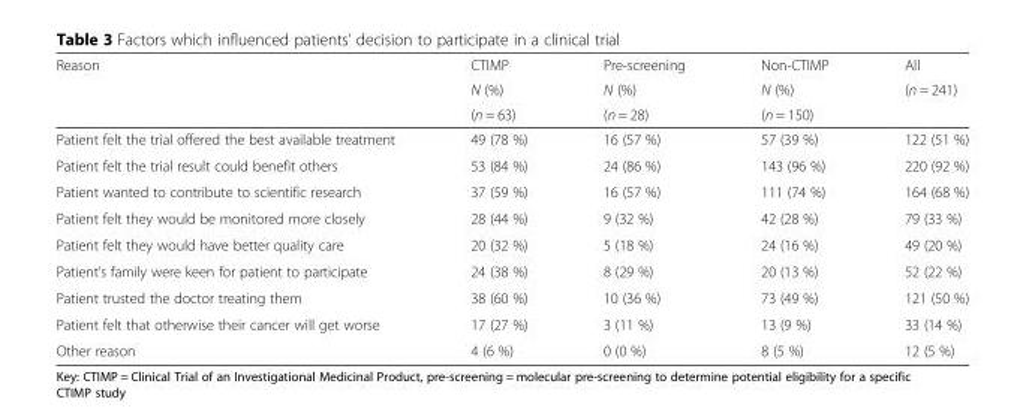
<table><thead><tr><td rowspan="3">Reason</td><td rowspan="3">CTIMP N (%) (n = 63)</td><td rowspan="3">Pre-screening N (%) (n = 28)</td><td rowspan="3">Non-CTIMP N (%) (n = 150)</td><td rowspan="3">All (n = 241)</td></tr><tr></tr><tr></tr></thead><tbody><tr><td>Patient felt the trial offered the best available treatment</td><td>49 (78 %)</td><td>16 (57 %)</td><td>57 (39 %)</td><td>122 (51 %)</td></tr><tr><td>Patient felt the trial result could benefit others</td><td>53 (84 %)</td><td>24 (86 %)</td><td>143 (96 %)</td><td>220 (92 %)</td></tr><tr><td>Patient wanted to contribute to scientific research</td><td>37 (59 %)</td><td>16 (57 %)</td><td>111 (74 %)</td><td>164 (68 %)</td></tr><tr><td>Patient felt they would be monitored more closely</td><td>28 (44 %)</td><td>9 (32 %)</td><td>42 (28 %)</td><td>79 (33 %)</td></tr><tr><td>Patient felt they would have better quality care</td><td>20 (32 %)</td><td>5 (18 %)</td><td>24 (16 %)</td><td>49 (20 %)</td></tr><tr><td>Patient’s family were keen for patient to participate</td><td>24 (38 %)</td><td>8 (29 %)</td><td>20 (13 %)</td><td>52 (22 %)</td></tr><tr><td>Patient trusted the doctor treating them</td><td>38 (60 %)</td><td>10 (36 %)</td><td>73 (49 %)</td><td>121 (50 %)</td></tr><tr><td>Patient felt that otherwise their cancer will get worse</td><td>17 (27 %)</td><td>3 (11 %)</td><td>13 (9 %)</td><td>33 (14 %)</td></tr><tr><td>Other reason</td><td>4 (6 %)</td><td>0 (0 %)</td><td>8 (5 %)</td><td>12 (5 %)</td></tr></tbody></table>